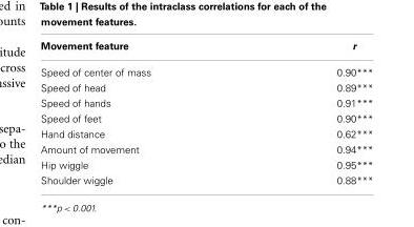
<table><thead><tr><td>Movement feature</td><td>r</td></tr></thead><tbody><tr><td>Speed of center of mass</td><td>0.90***</td></tr><tr><td>Speed of head</td><td>0.89***</td></tr><tr><td>Speed of hands</td><td>0.91***</td></tr><tr><td>Speed of feet</td><td>0.90***</td></tr><tr><td>Hand distance</td><td>0.62***</td></tr><tr><td>Amount of movement</td><td>0.94***</td></tr><tr><td>Hip wiggle</td><td>0.95***</td></tr><tr><td>Shoulder wiggle</td><td>0.88***</td></tr></tbody></table>